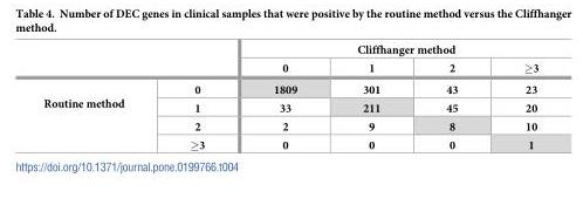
<table><thead><tr><td rowspan="2"></td><td rowspan="2"></td><td colspan="4">Cliffhanger method</td></tr><tr><td>0</td><td>1</td><td>2</td><td>≥3</td></tr></thead><tbody><tr><td rowspan="4">Routine method</td><td>0</td><td>1809</td><td>301</td><td>43</td><td>23</td></tr><tr><td>1</td><td>33</td><td>211</td><td>45</td><td>20</td></tr><tr><td>2</td><td>2</td><td>9</td><td>8</td><td>10</td></tr><tr><td>≥3</td><td>0</td><td>0</td><td>0</td><td>1</td></tr></tbody></table>